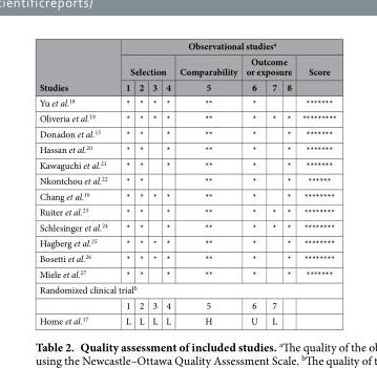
<table><thead><tr><td rowspan="3">Studies</td><td colspan="9">Observational studies<sup>a</sup></td></tr><tr><td colspan="4">Selection</td><td rowspan="2">Comparability 5</td><td colspan="3">Outcome or exposure</td><td rowspan="2">Score</td></tr><tr><td>1</td><td>2</td><td>3</td><td>4</td><td>6</td><td>7</td><td>8</td></tr></thead><tbody><tr><td>Yu et al.<sup>18</sup></td><td>*</td><td>*</td><td>*</td><td>*</td><td>**</td><td>*</td><td></td><td></td><td>*******</td></tr><tr><td>Oliveria et al.<sup>19</sup></td><td>*</td><td>*</td><td>*</td><td>*</td><td>**</td><td>*</td><td>*</td><td>*</td><td>*********</td></tr><tr><td>Donadon et al.<sup>15</sup></td><td>*</td><td>*</td><td></td><td>*</td><td>**</td><td>*</td><td></td><td>*</td><td>*******</td></tr><tr><td>Hassan et al.<sup>20</sup></td><td>*</td><td>*</td><td></td><td>*</td><td>**</td><td>*</td><td></td><td>*</td><td>*******</td></tr><tr><td>Kawaguchi et al.<sup>21</sup></td><td>*</td><td>*</td><td></td><td>*</td><td>**</td><td>*</td><td></td><td>*</td><td>*******</td></tr><tr><td>Nkontchou et al.<sup>22</sup></td><td>*</td><td>*</td><td></td><td></td><td>**</td><td>*</td><td></td><td>*</td><td>******</td></tr><tr><td>Chang et al.<sup>16</sup></td><td>*</td><td>*</td><td>*</td><td>*</td><td>**</td><td>*</td><td></td><td>*</td><td>********</td></tr><tr><td>Ruiter et al.<sup>23</sup></td><td>*</td><td>*</td><td></td><td>*</td><td>**</td><td>*</td><td>*</td><td>*</td><td>********</td></tr><tr><td>Schlesinger et al.<sup>24</sup></td><td>*</td><td>*</td><td></td><td>*</td><td>**</td><td>*</td><td>*</td><td>*</td><td>********</td></tr><tr><td>Hagberg et al.<sup>25</sup></td><td>*</td><td>*</td><td>*</td><td>*</td><td>**</td><td>*</td><td></td><td>*</td><td>********</td></tr><tr><td>Bosetti et al.<sup>26</sup></td><td>*</td><td>*</td><td>*</td><td>*</td><td>**</td><td>*</td><td></td><td>*</td><td>********</td></tr><tr><td>Miele et al.<sup>27</sup></td><td>*</td><td>*</td><td></td><td>*</td><td>**</td><td>*</td><td></td><td>*</td><td>*******</td></tr><tr><td colspan="10">Randomized clinical trial<sup>b</sup></td></tr><tr><td></td><td>1</td><td>2</td><td>3</td><td>4</td><td>5</td><td>6</td><td>7</td><td></td><td></td></tr><tr><td>Home et al.<sup>17</sup></td><td>L</td><td>L</td><td>L</td><td>L</td><td>H</td><td>U</td><td>L</td><td></td><td></td></tr></tbody></table>